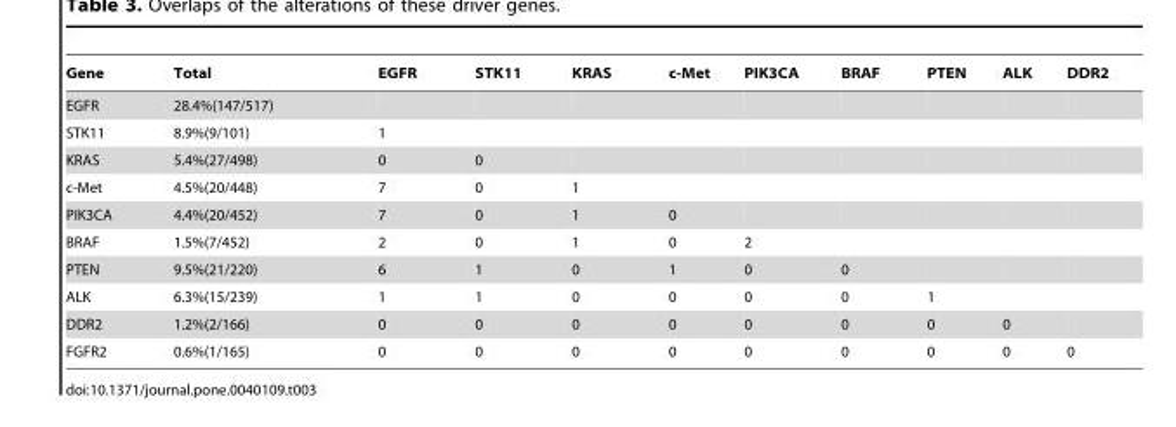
<table><thead><tr><td>Gene</td><td>Total</td><td>EGFR</td><td>STK11</td><td>KRAS</td><td>c-Met</td><td>PIK3CA</td><td>BRAF</td><td>PTEN</td><td>ALK</td><td>DDR2</td></tr></thead><tbody><tr><td>EGFR</td><td>28.4%(147/517)</td><td></td><td></td><td></td><td></td><td></td><td></td><td></td><td></td><td></td></tr><tr><td>STK11</td><td>8.9%(9/101)</td><td>1</td><td></td><td></td><td></td><td></td><td></td><td></td><td></td><td></td></tr><tr><td>KRAS</td><td>5.4%(27/498)</td><td>0</td><td>0</td><td></td><td></td><td></td><td></td><td></td><td></td><td></td></tr><tr><td>c-Met</td><td>4.5%(20/448)</td><td>7</td><td>0</td><td>1</td><td></td><td></td><td></td><td></td><td></td><td></td></tr><tr><td>PIK3CA</td><td>4.4%(20/452)</td><td>7</td><td>0</td><td>1</td><td>0</td><td></td><td></td><td></td><td></td><td></td></tr><tr><td>BRAF</td><td>1.5%(7/452)</td><td>2</td><td>0</td><td>1</td><td>0</td><td>2</td><td></td><td></td><td></td><td></td></tr><tr><td>PTEN</td><td>9.5%(21/220)</td><td>6</td><td>1</td><td>0</td><td>1</td><td>0</td><td>0</td><td></td><td></td><td></td></tr><tr><td>ALK</td><td>6.3%(15/239)</td><td>1</td><td>1</td><td>0</td><td>0</td><td>0</td><td>0</td><td>1</td><td></td><td></td></tr><tr><td>DDR2</td><td>1.2%(2/166)</td><td>0</td><td>0</td><td>0</td><td>0</td><td>0</td><td>0</td><td>0</td><td>0</td><td></td></tr><tr><td>FGFR2</td><td>0.6%(1/165)</td><td>0</td><td>0</td><td>0</td><td>0</td><td>0</td><td>0</td><td>0</td><td>0</td><td>0</td></tr></tbody></table>